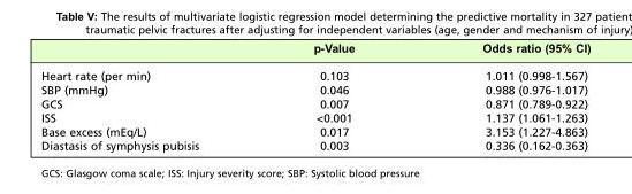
<table><thead><tr><td></td><td>p-Value</td><td>Odds ratio (95% CI)</td></tr></thead><tbody><tr><td>Heart rate (per min)</td><td>0.103</td><td>1.011 (0.998-1.567)</td></tr><tr><td>SBP (mmHg)</td><td>0.046</td><td>0.988 (0.976-1.017)</td></tr><tr><td>GCS</td><td>0.007</td><td>0.871 (0.789-0.922)</td></tr><tr><td>ISS</td><td>&lt;0.001</td><td>1.137 (1.061-1.263)</td></tr><tr><td>Base excess (mEq/L)</td><td>0.017</td><td>3.153 (1.227-4.863)</td></tr><tr><td>Diastasis of symphysis pubisis</td><td>0.003</td><td>0.336 (0.162-0.363)</td></tr></tbody></table>